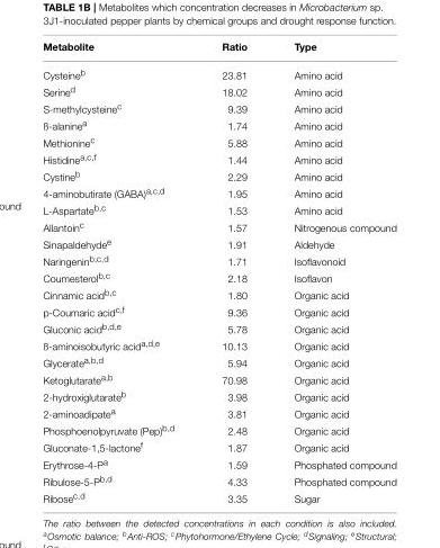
<table><thead><tr><td>Metabolite</td><td>Ratio</td><td>Type</td></tr></thead><tbody><tr><td>Cysteine<sup>b</sup></td><td>23.81</td><td>Amino acid</td></tr><tr><td>Serine<sup>d</sup></td><td>18.02</td><td>Amino acid</td></tr><tr><td>S-methylcysteine<sup>c</sup></td><td>9.39</td><td>Amino acid</td></tr><tr><td>ß-alanine<sup>a</sup></td><td>1.74</td><td>Amino acid</td></tr><tr><td>Methionine<sup>c</sup></td><td>5.88</td><td>Amino acid</td></tr><tr><td>Histidine<sup>a,c,f</sup></td><td>1.44</td><td>Amino acid</td></tr><tr><td>Cystine<sup>b</sup></td><td>2.29</td><td>Amino acid</td></tr><tr><td>4-aminobutirate (GABA)<sup>a,c,d</sup></td><td>1.95</td><td>Amino acid</td></tr><tr><td>L-Aspartate<sup>b,c</sup></td><td>1.53</td><td>Amino acid</td></tr><tr><td>Allantoin<sup>c</sup></td><td>1.57</td><td>Nitrogenous compound</td></tr><tr><td>Sinapaldehyde<sup>e</sup></td><td>1.91</td><td>Aldehyde</td></tr><tr><td>Naringenin<sup>b,c,d</sup></td><td>1.71</td><td>Isoflavonoid</td></tr><tr><td>Coumesterol<sup>b,c</sup></td><td>2.18</td><td>Isoflavon</td></tr><tr><td>Cinnamic acid<sup>b,c</sup></td><td>1.80</td><td>Organic acid</td></tr><tr><td>p-Coumaric acid<sup>c,f</sup></td><td>9.36</td><td>Organic acid</td></tr><tr><td>Gluconic acid<sup>b,d,e</sup></td><td>5.78</td><td>Organic acid</td></tr><tr><td>ß-aminoisobutyric acid<sup>a,d,e</sup></td><td>10.13</td><td>Organic acid</td></tr><tr><td>Glycerate<sup>a,b,d</sup></td><td>5.94</td><td>Organic acid</td></tr><tr><td>Ketoglutarate<sup>a,b</sup></td><td>70.98</td><td>Organic acid</td></tr><tr><td>2-hydroxiglutarate<sup>b</sup></td><td>3.98</td><td>Organic acid</td></tr><tr><td>2-aminoadipate<sup>a</sup></td><td>3.81</td><td>Organic acid</td></tr><tr><td>Phosphoenolpyruvate (Pep)<sup>b,d</sup></td><td>2.48</td><td>Organic acid</td></tr><tr><td>Gluconate-1,5-lactone<sup>f</sup></td><td>1.87</td><td>Organic acid</td></tr><tr><td>Erythrose-4-P<sup>a</sup></td><td>1.59</td><td>Phosphated compound</td></tr><tr><td>Ribulose-5-P<sup>b,d</sup></td><td>4.33</td><td>Phosphated compound</td></tr><tr><td>Ribose<sup>c,d</sup></td><td>3.35</td><td>Sugar</td></tr></tbody></table>